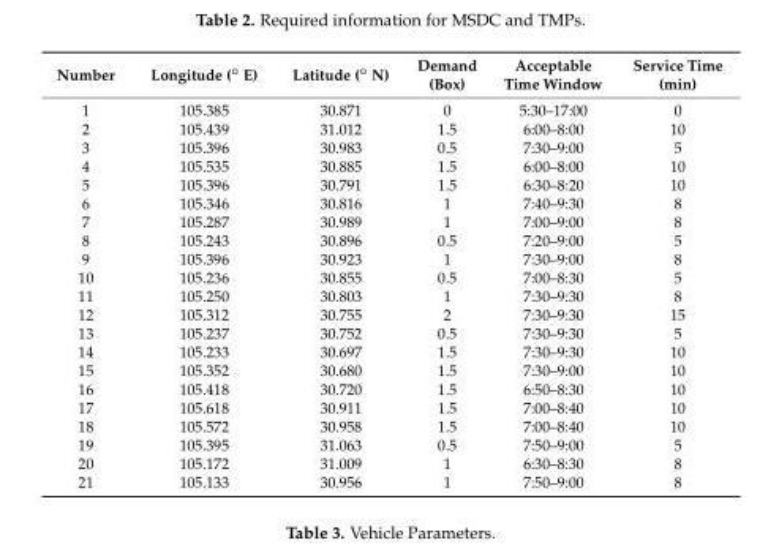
<table><thead><tr><td>Number</td><td>Longitude (◦ E)</td><td>Latitude (◦ N)</td><td>Demand (Box)</td><td>Acceptable Time Window</td><td>Service Time (min)</td></tr></thead><tbody><tr><td>1</td><td>105.385</td><td>30.871</td><td>0</td><td>5:30–17:00</td><td>0</td></tr><tr><td>2</td><td>105.439</td><td>31.012</td><td>1.5</td><td>6:00–8:00</td><td>10</td></tr><tr><td>3</td><td>105.396</td><td>30.983</td><td>0.5</td><td>7:30–9:00</td><td>5</td></tr><tr><td>4</td><td>105.535</td><td>30.885</td><td>1.5</td><td>6:00–8:00</td><td>10</td></tr><tr><td>5</td><td>105.396</td><td>30.791</td><td>1.5</td><td>6:30–8:20</td><td>10</td></tr><tr><td>6</td><td>105.346</td><td>30.816</td><td>1</td><td>7:40–9:30</td><td>8</td></tr><tr><td>7</td><td>105.287</td><td>30.989</td><td>1</td><td>7:00–9:00</td><td>8</td></tr><tr><td>8</td><td>105.243</td><td>30.896</td><td>0.5</td><td>7:20–9:00</td><td>5</td></tr><tr><td>9</td><td>105.396</td><td>30.923</td><td>1</td><td>7:30–9:00</td><td>8</td></tr><tr><td>10</td><td>105.236</td><td>30.855</td><td>0.5</td><td>7:00–8:30</td><td>5</td></tr><tr><td>11</td><td>105.250</td><td>30.803</td><td>1</td><td>7:30–9:30</td><td>8</td></tr><tr><td>12</td><td>105.312</td><td>30.755</td><td>2</td><td>7:30–9:30</td><td>15</td></tr><tr><td>13</td><td>105.237</td><td>30.752</td><td>0.5</td><td>7:30–9:30</td><td>5</td></tr><tr><td>14</td><td>105.233</td><td>30.697</td><td>1.5</td><td>7:30–9:30</td><td>10</td></tr><tr><td>15</td><td>105.352</td><td>30.680</td><td>1.5</td><td>7:30–9:00</td><td>10</td></tr><tr><td>16</td><td>105.418</td><td>30.720</td><td>1.5</td><td>6:50–8:30</td><td>10</td></tr><tr><td>17</td><td>105.618</td><td>30.911</td><td>1.5</td><td>7:00–8:40</td><td>10</td></tr><tr><td>18</td><td>105.572</td><td>30.958</td><td>1.5</td><td>7:00–8:40</td><td>10</td></tr><tr><td>19</td><td>105.395</td><td>31.063</td><td>0.5</td><td>7:50–9:00</td><td>5</td></tr><tr><td>20</td><td>105.172</td><td>31.009</td><td>1</td><td>6:30–8:30</td><td>8</td></tr><tr><td>21</td><td>105.133</td><td>30.956</td><td>1</td><td>7:50–9:00</td><td>8</td></tr></tbody></table>